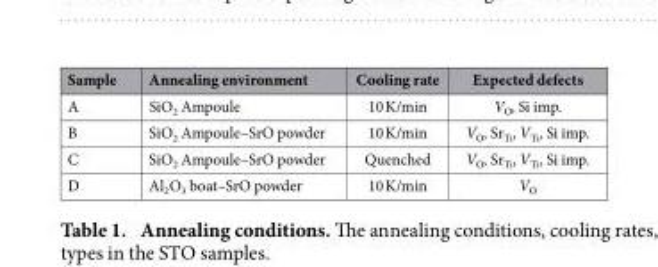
<table><thead><tr><td>Sample</td><td>Annealing environment</td><td>Cooling rate</td><td>Expected defects</td></tr></thead><tbody><tr><td>A</td><td>SiO<sub>2</sub> Ampoule</td><td>10 K/min</td><td>V<sub>O</sub>, Si imp.</td></tr><tr><td>B</td><td>SiO<sub>2</sub> Ampoule–SrO powder</td><td>10 K/min</td><td>V<sub>O</sub>, Sr<sub>Ti</sub>, V<sub>Ti</sub>, Si imp.</td></tr><tr><td>C</td><td>SiO<sub>2</sub> Ampoule–SrO powder</td><td>Quenched</td><td>V<sub>O</sub>, Sr<sub>Ti</sub>, V<sub>Ti</sub>, Si imp.</td></tr><tr><td>D</td><td>Al<sub>2</sub>O<sub>3</sub> boat–SrO powder</td><td>10 K/min</td><td>V<sub>O</sub></td></tr></tbody></table>